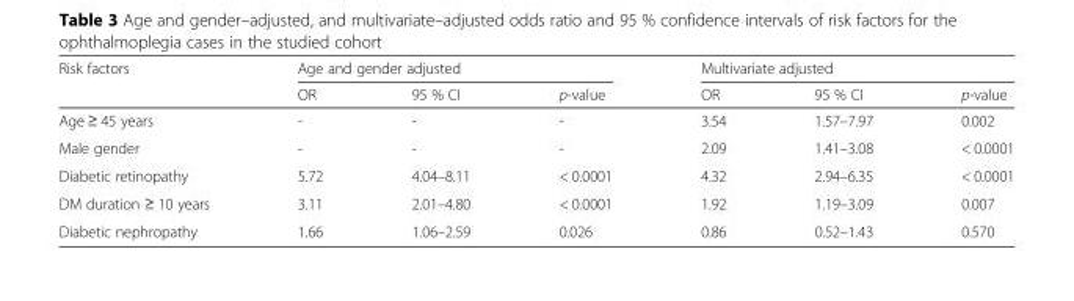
<table><thead><tr><td rowspan="2">Risk factors</td><td colspan="3">Age and gender adjusted</td><td colspan="3">Multivariate adjusted</td></tr><tr><td>OR</td><td>95 % CI</td><td>p-value</td><td>OR</td><td>95 % CI</td><td>p-value</td></tr></thead><tbody><tr><td>Age ≥ 45 years</td><td>-</td><td>-</td><td>-</td><td>3.54</td><td>1.57–7.97</td><td>0.002</td></tr><tr><td>Male gender</td><td>-</td><td>-</td><td>-</td><td>2.09</td><td>1.41–3.08</td><td>&lt; 0.0001</td></tr><tr><td>Diabetic retinopathy</td><td>5.72</td><td>4.04–8.11</td><td>&lt; 0.0001</td><td>4.32</td><td>2.94–6.35</td><td>&lt; 0.0001</td></tr><tr><td>DM duration ≥ 10 years</td><td>3.11</td><td>2.01–4.80</td><td>&lt; 0.0001</td><td>1.92</td><td>1.19–3.09</td><td>0.007</td></tr><tr><td>Diabetic nephropathy</td><td>1.66</td><td>1.06–2.59</td><td>0.026</td><td>0.86</td><td>0.52–1.43</td><td>0.570</td></tr></tbody></table>